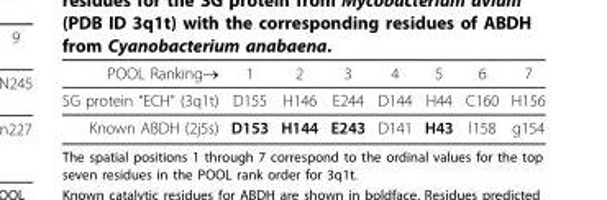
<table><thead><tr><td>POOL Ranking→</td><td>1</td><td>2</td><td>3</td><td>4</td><td>5</td><td>6</td><td>7</td></tr></thead><tbody><tr><td>SG protein “ECH” (3q1t)</td><td>D155</td><td>H146</td><td>E244</td><td>D144</td><td>H44</td><td>C160</td><td>H156</td></tr><tr><td>Known ABDH (2j5s)</td><td>D153</td><td>H144</td><td>E243</td><td>D141</td><td>H43</td><td>l158</td><td>g154</td></tr></tbody></table>